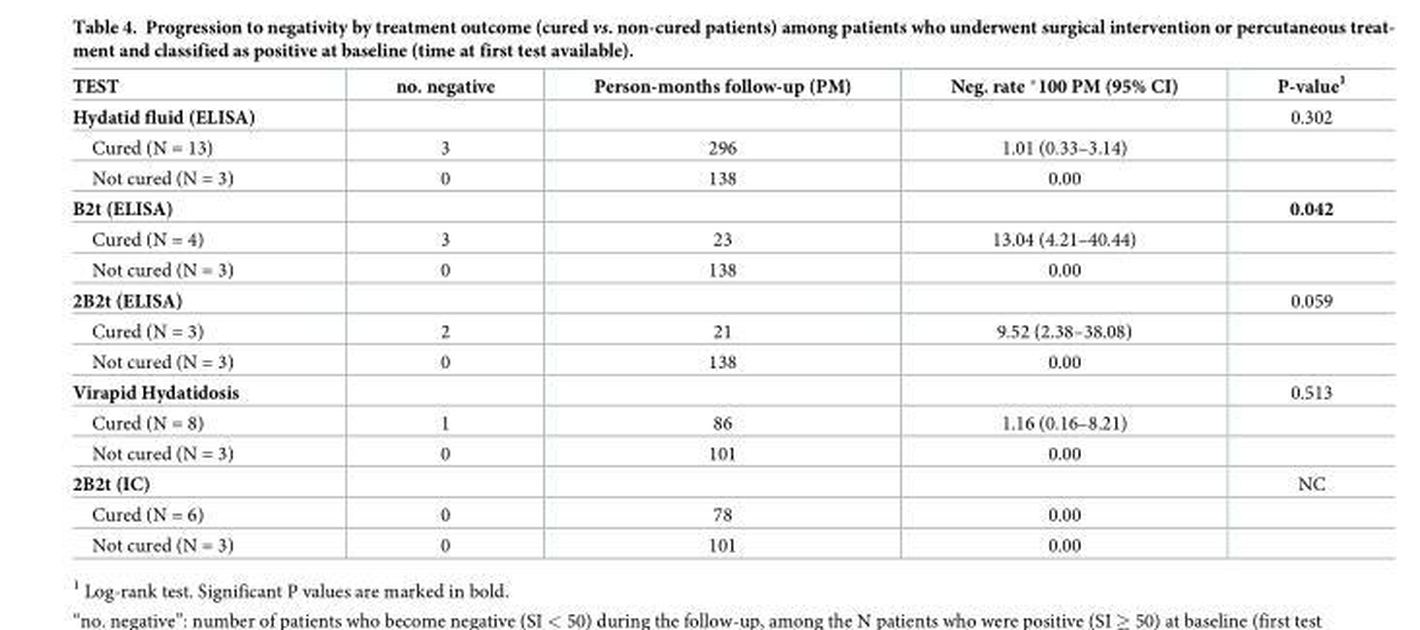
<table><thead><tr><td>TEST</td><td>no. negative</td><td>Person-months follow-up (PM)</td><td>Neg. rate *100 PM (95% CI)</td><td>P-value<sup>1</sup></td></tr></thead><tbody><tr><td>Hydatid fluid (ELISA)</td><td></td><td></td><td></td><td>0.302</td></tr><tr><td>Cured (N = 13)</td><td>3</td><td>296</td><td>1.01 (0.33–3.14)</td><td></td></tr><tr><td>Not cured (N = 3)</td><td>0</td><td>138</td><td>0.00</td><td></td></tr><tr><td>B2t (ELISA)</td><td></td><td></td><td></td><td>0.042</td></tr><tr><td>Cured (N = 4)</td><td>3</td><td>23</td><td>13.04 (4.21–40.44)</td><td></td></tr><tr><td>Not cured (N = 3)</td><td>0</td><td>138</td><td>0.00</td><td></td></tr><tr><td>2B2t (ELISA)</td><td></td><td></td><td></td><td>0.059</td></tr><tr><td>Cured (N = 3)</td><td>2</td><td>21</td><td>9.52 (2.38–38.08)</td><td></td></tr><tr><td>Not cured (N = 3)</td><td>0</td><td>138</td><td>0.00</td><td></td></tr><tr><td>Virapid Hydatidosis</td><td></td><td></td><td></td><td>0.513</td></tr><tr><td>Cured (N = 8)</td><td>1</td><td>86</td><td>1.16 (0.16–8.21)</td><td></td></tr><tr><td>Not cured (N = 3)</td><td>0</td><td>101</td><td>0.00</td><td></td></tr><tr><td>2B2t (IC)</td><td></td><td></td><td></td><td>NC</td></tr><tr><td>Cured (N = 6)</td><td>0</td><td>78</td><td>0.00</td><td></td></tr><tr><td>Not cured (N = 3)</td><td>0</td><td>101</td><td>0.00</td><td></td></tr></tbody></table>